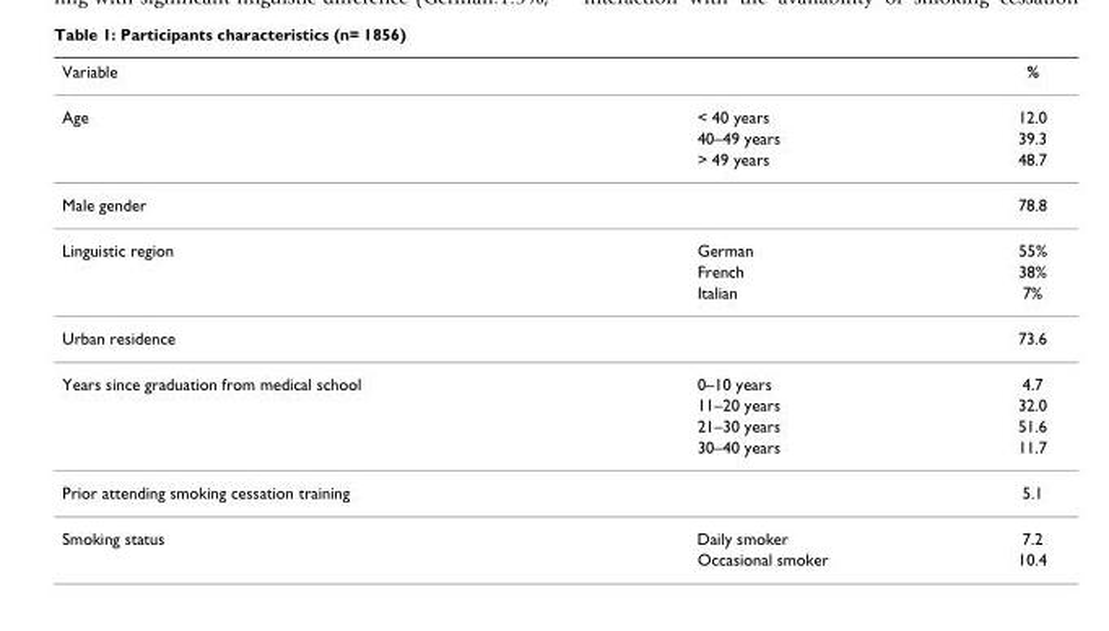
<table><thead><tr><td>Variable</td><td></td><td>%</td></tr></thead><tbody><tr><td rowspan="3">Age</td><td>&lt; 40 years</td><td>12.0</td></tr><tr><td>40–49 years</td><td>39.3</td></tr><tr><td>&gt; 49 years</td><td>48.7</td></tr><tr><td>Male gender</td><td></td><td>78.8</td></tr><tr><td rowspan="3">Linguistic region</td><td>German</td><td>55%</td></tr><tr><td>French</td><td>38%</td></tr><tr><td>Italian</td><td>7%</td></tr><tr><td>Urban residence</td><td></td><td>73.6</td></tr><tr><td rowspan="4">Years since graduation from medical school</td><td>0–10 years</td><td>4.7</td></tr><tr><td>11–20 years</td><td>32.0</td></tr><tr><td>21–30 years</td><td>51.6</td></tr><tr><td>30–40 years</td><td>11.7</td></tr><tr><td>Prior attending smoking cessation training</td><td></td><td>5.1</td></tr><tr><td rowspan="2">Smoking status</td><td>Daily smoker</td><td>7.2</td></tr><tr><td>Occasional smoker</td><td>10.4</td></tr></tbody></table>